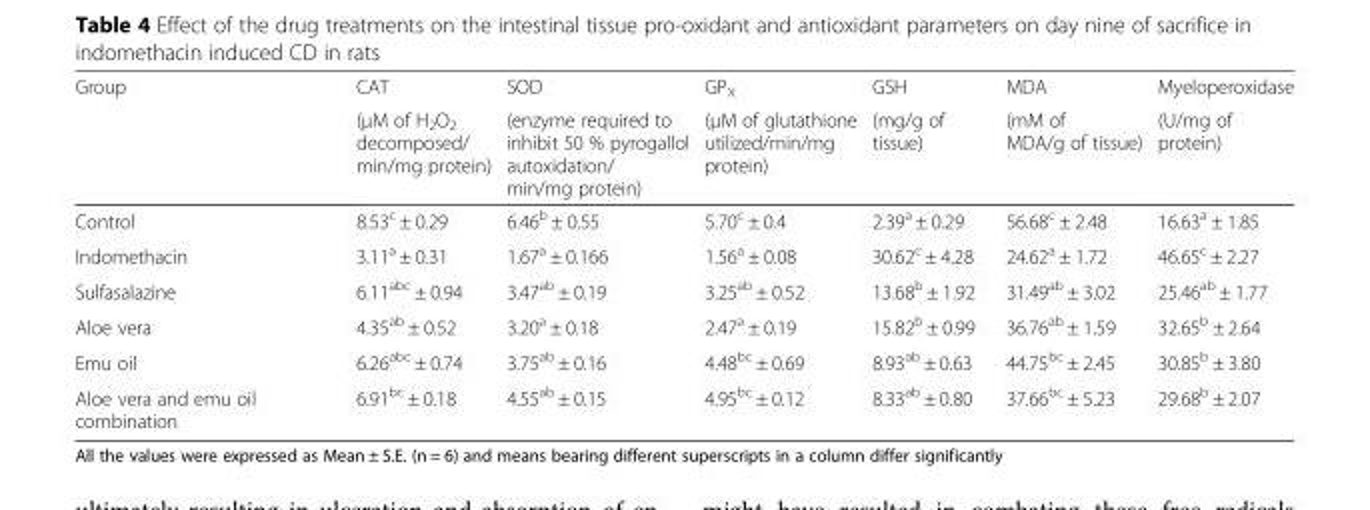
<table><thead><tr><td rowspan="2">Group</td><td rowspan="2">CAT (μM of H<sub>2</sub>O<sub>2</sub> decomposed/ min/mg protein)</td><td rowspan="2">SOD (enzyme required to inhibit 50 % pyrogallol autoxidation/ min/mg protein)</td><td rowspan="2">GP<sub>X</sub> (μM of glutathione utilized/min/mg protein)</td><td rowspan="2">GSH (mg/g of tissue)</td><td rowspan="2">MDA (mM of MDA/g of tissue)</td><td rowspan="2">Myeloperoxidase (U/mg of protein)</td></tr><tr></tr></thead><tbody><tr><td>Control</td><td>8.53<sup>c</sup> ± 0.29</td><td>6.46<sup>b</sup> ± 0.55</td><td>5.70<sup>c</sup> ± 0.4</td><td>2.39<sup>a</sup> ± 0.29</td><td>56.68<sup>c</sup> ± 2.48</td><td>16.63<sup>a</sup> ± 1.85</td></tr><tr><td>Indomethacin</td><td>3.11<sup>a</sup> ± 0.31</td><td>1.67<sup>a</sup> ± 0.166</td><td>1.56<sup>a</sup> ± 0.08</td><td>30.62<sup>c</sup> ± 4.28</td><td>24.62<sup>a</sup> ± 1.72</td><td>46.65<sup>c</sup> ± 2.27</td></tr><tr><td>Sulfasalazine</td><td>6.11<sup>abc</sup> ± 0.94</td><td>3.47<sup>ab</sup> ± 0.19</td><td>3.25<sup>ab</sup> ± 0.52</td><td>13.68<sup>b</sup> ± 1.92</td><td>31.49<sup>ab</sup> ± 3.02</td><td>25.46<sup>ab</sup> ± 1.77</td></tr><tr><td>Aloe vera</td><td>4.35<sup>ab</sup> ± 0.52</td><td>3.20<sup>a</sup> ± 0.18</td><td>2.47<sup>a</sup> ± 0.19</td><td>15.82<sup>b</sup> ± 0.99</td><td>36.76<sup>ab</sup> ± 1.59</td><td>32.65<sup>b</sup> ± 2.64</td></tr><tr><td>Emu oil</td><td>6.26<sup>abc</sup> ± 0.74</td><td>3.75<sup>ab</sup> ± 0.16</td><td>4.48<sup>bc</sup> ± 0.69</td><td>8.93<sup>ab</sup> ± 0.63</td><td>44.75<sup>bc</sup> ± 2.45</td><td>30.85<sup>b</sup> ± 3.80</td></tr><tr><td>Aloe vera and emu oil combination</td><td>6.91<sup>bc</sup> ± 0.18</td><td>4.55<sup>ab</sup> ± 0.15</td><td>4.95<sup>bc</sup> ± 0.12</td><td>8.33<sup>ab</sup> ± 0.80</td><td>37.66<sup>bc</sup> ± 5.23</td><td>29.68<sup>b</sup> ± 2.07</td></tr></tbody></table>